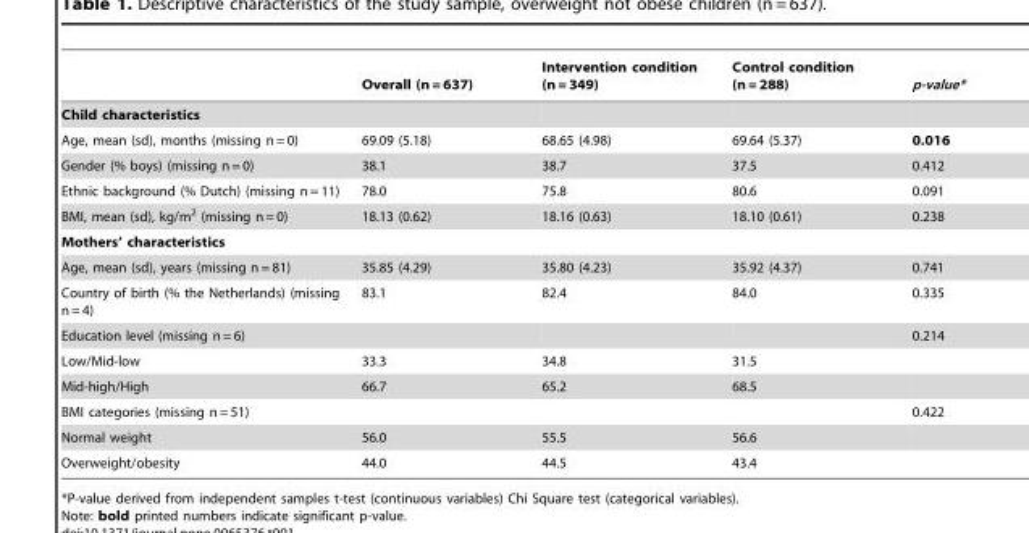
<table><thead><tr><td></td><td>Overall (n = 637)</td><td>Intervention condition (n = 349)</td><td>Control condition (n = 288)</td><td>p-value*</td></tr></thead><tbody><tr><td colspan="5">Child characteristics</td></tr><tr><td>Age, mean (sd), months (missing n = 0)</td><td>69.09 (5.18)</td><td>68.65 (4.98)</td><td>69.64 (5.37)</td><td>0.016</td></tr><tr><td>Gender (% boys) (missing n = 0)</td><td>38.1</td><td>38.7</td><td>37.5</td><td>0.412</td></tr><tr><td>Ethnic background (% Dutch) (missing n = 11)</td><td>78.0</td><td>75.8</td><td>80.6</td><td>0.091</td></tr><tr><td>BMI, mean (sd), kg/m<sup>2</sup> (missing n = 0)</td><td>18.13 (0.62)</td><td>18.16 (0.63)</td><td>18.10 (0.61)</td><td>0.238</td></tr><tr><td colspan="5">Mothers’ characteristics</td></tr><tr><td>Age, mean (sd), years (missing n = 81)</td><td>35.85 (4.29)</td><td>35.80 (4.23)</td><td>35.92 (4.37)</td><td>0.741</td></tr><tr><td>Country of birth (% the Netherlands) (missing n = 4)</td><td>83.1</td><td>82.4</td><td>84.0</td><td>0.335</td></tr><tr><td>Education level (missing n = 6)</td><td></td><td></td><td></td><td>0.214</td></tr><tr><td>Low/Mid-low</td><td>33.3</td><td>34.8</td><td>31.5</td><td></td></tr><tr><td>Mid-high/High</td><td>66.7</td><td>65.2</td><td>68.5</td><td></td></tr><tr><td>BMI categories (missing n = 51)</td><td></td><td></td><td></td><td>0.422</td></tr><tr><td>Normal weight</td><td>56.0</td><td>55.5</td><td>56.6</td><td></td></tr><tr><td>Overweight/obesity</td><td>44.0</td><td>44.5</td><td>43.4</td><td></td></tr></tbody></table>